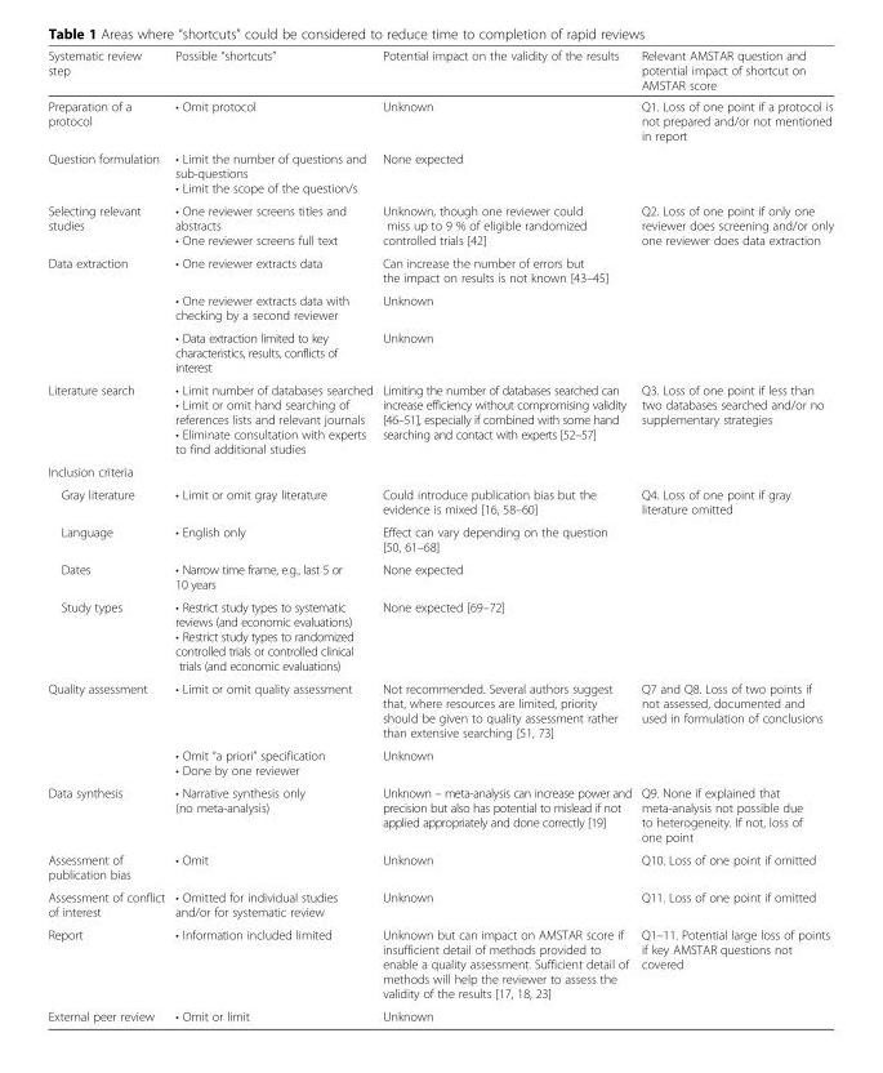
<table><thead><tr><td>Systematic review step</td><td>Possible “shortcuts”</td><td>Potential impact on the validity of the results</td><td>Relevant AMSTAR question and potential impact of shortcut on AMSTAR score</td></tr></thead><tbody><tr><td>Preparation of a protocol</td><td>• Omit protocol</td><td>Unknown</td><td>Q1. Loss of one point if a protocol is not prepared and/or not mentioned in report</td></tr><tr><td>Question formulation</td><td>• Limit the number of questions and sub-questions • Limit the scope of the question/s</td><td>None expected</td><td></td></tr><tr><td>Selecting relevant studies</td><td>• One reviewer screens titles and abstracts • One reviewer screens full text</td><td>Unknown, though one reviewer could miss up to 9 % of eligible randomized controlled trials [42]</td><td>Q2. Loss of one point if only one reviewer does screening and/or only one reviewer does data extraction</td></tr><tr><td rowspan="3">Data extraction</td><td>• One reviewer extracts data</td><td>Can increase the number of errors but the impact on results is not known [43–45]</td><td rowspan="2"></td></tr><tr><td>• One reviewer extracts data with checking by a second reviewer</td><td>Unknown</td></tr><tr><td>• Data extraction limited to key characteristics, results, conflicts of interest</td><td>Unknown</td><td></td></tr><tr><td>Literature search</td><td>• Limit number of databases searched • Limit or omit hand searching of references lists and relevant journals • Eliminate consultation with experts to find additional studies</td><td>Limiting the number of databases searched can increase efficiency without compromising validity [46–51], especially if combined with some hand searching and contact with experts [52–57]</td><td>Q3. Loss of one point if less than two databases searched and/or no supplementary strategies</td></tr><tr><td colspan="4">Inclusion criteria</td></tr><tr><td>Gray literature</td><td>• Limit or omit gray literature</td><td>Could introduce publication bias but the evidence is mixed [16, 58–60]</td><td>Q4. Loss of one point if gray literature omitted</td></tr><tr><td>Language</td><td>• English only</td><td>Effect can vary depending on the question [50, 61–68]</td><td></td></tr><tr><td>Dates</td><td>• Narrow time frame, e.g., last 5 or 10 years</td><td>None expected</td><td></td></tr><tr><td>Study types</td><td>• Restrict study types to systematic reviews (and economic evaluations) • Restrict study types to randomized controlled trials or controlled clinical trials (and economic evaluations)</td><td>None expected [69–72]</td><td></td></tr><tr><td rowspan="2">Quality assessment</td><td>• Limit or omit quality assessment</td><td>Not recommended. Several authors suggest that, where resources are limited, priority should be given to quality assessment rather than extensive searching [51, 73]</td><td rowspan="2">Q7 and Q8. Loss of two points if not assessed, documented and used in formulation of conclusions</td></tr><tr><td>• Omit “a priori” specification • Done by one reviewer</td><td>Unknown</td></tr><tr><td>Data synthesis</td><td>• Narrative synthesis only (no meta-analysis)</td><td>Unknown – meta-analysis can increase power and precision but also has potential to mislead if not applied appropriately and done correctly [19]</td><td>Q9. None if explained that meta-analysis not possible due to heterogeneity. If not, loss of one point</td></tr><tr><td>Assessment of publication bias</td><td>• Omit</td><td>Unknown</td><td>Q10. Loss of one point if omitted</td></tr><tr><td>Assessment of conflict of interest</td><td>• Omitted for individual studies and/or for systematic review</td><td>Unknown</td><td>Q11. Loss of one point if omitted</td></tr><tr><td>Report</td><td>• Information included limited</td><td>Unknown but can impact on AMSTAR score if insufficient detail of methods provided to enable a quality assessment. Sufficient detail of methods will help the reviewer to assess the validity of the results [17, 18, 23]</td><td>Q1–11. Potential large loss of points if key AMSTAR questions not covered</td></tr><tr><td>External peer review</td><td>• Omit or limit</td><td>Unknown</td><td></td></tr></tbody></table>